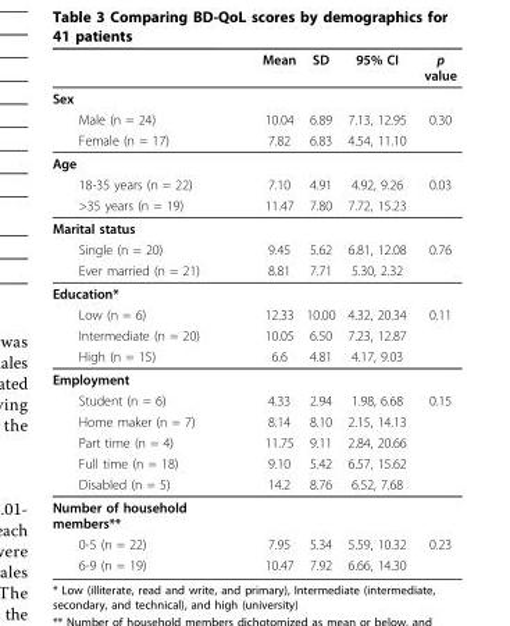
<table><thead><tr><td></td><td>Mean</td><td>SD</td><td>95% CI</td><td>p value</td></tr></thead><tbody><tr><td colspan="5">Sex</td></tr><tr><td>Male (n = 24)</td><td>10.04</td><td>6.89</td><td>7.13, 12.95</td><td>0.30</td></tr><tr><td>Female (n = 17)</td><td>7.82</td><td>6.83</td><td>4.54, 11.10</td><td></td></tr><tr><td colspan="5">Age</td></tr><tr><td>18-35 years (n = 22)</td><td>7.10</td><td>4.91</td><td>4.92, 9.26</td><td>0.03</td></tr><tr><td>&gt;35 years (n = 19)</td><td>11.47</td><td>7.80</td><td>7.72, 15.23</td><td></td></tr><tr><td colspan="5">Marital status</td></tr><tr><td>Single (n = 20)</td><td>9.45</td><td>5.62</td><td>6.81, 12.08</td><td>0.76</td></tr><tr><td>Ever married (n = 21)</td><td>8.81</td><td>7.71</td><td>5.30, 2.32</td><td></td></tr><tr><td colspan="5">Education*</td></tr><tr><td>Low (n = 6)</td><td>12.33</td><td>10.00</td><td>4.32, 20.34</td><td>0.11</td></tr><tr><td>Intermediate (n = 20)</td><td>10.05</td><td>6.50</td><td>7.23, 12.87</td><td></td></tr><tr><td>High (n = 15)</td><td>6.6</td><td>4.81</td><td>4.17, 9.03</td><td></td></tr><tr><td colspan="5">Employment</td></tr><tr><td>Student (n = 6)</td><td>4.33</td><td>2.94</td><td>1.98, 6.68</td><td>0.15</td></tr><tr><td>Home maker (n = 7)</td><td>8.14</td><td>8.10</td><td>2.15, 14.13</td><td></td></tr><tr><td>Part time (n = 4)</td><td>11.75</td><td>9.11</td><td>2.84, 20.66</td><td></td></tr><tr><td>Full time (n = 18)</td><td>9.10</td><td>5.42</td><td>6.57, 15.62</td><td></td></tr><tr><td>Disabled (n = 5)</td><td>14.2</td><td>8.76</td><td>6.52, 7.68</td><td></td></tr><tr><td colspan="5">Number of household members**</td></tr><tr><td>0-5 (n = 22)</td><td>7.95</td><td>5.34</td><td>5.59, 10.32</td><td>0.23</td></tr><tr><td>6-9 (n = 19)</td><td>10.47</td><td>7.92</td><td>6.66, 14.30</td><td></td></tr></tbody></table>